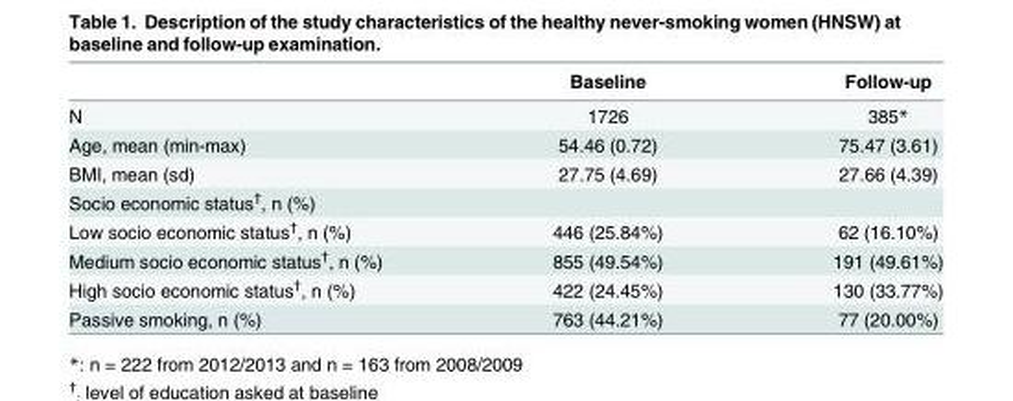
<table><thead><tr><td></td><td>Baseline</td><td>Follow-up</td></tr></thead><tbody><tr><td>N</td><td>1726</td><td>385*</td></tr><tr><td>Age, mean (min-max)</td><td>54.46 (0.72)</td><td>75.47 (3.61)</td></tr><tr><td>BMI, mean (sd)</td><td>27.75 (4.69)</td><td>27.66 (4.39)</td></tr><tr><td colspan="3">Socio economic status<sup>†</sup>, n (%)</td></tr><tr><td>Low socio economic status<sup>†</sup>, n (%)</td><td>446 (25.84%)</td><td>62 (16.10%)</td></tr><tr><td>Medium socio economic status<sup>†</sup>, n (%)</td><td>855 (49.54%)</td><td>191 (49.61%)</td></tr><tr><td>High socio economic status<sup>†</sup>, n (%)</td><td>422 (24.45%)</td><td>130 (33.77%)</td></tr><tr><td>Passive smoking, n (%)</td><td>763 (44.21%)</td><td>77 (20.00%)</td></tr></tbody></table>